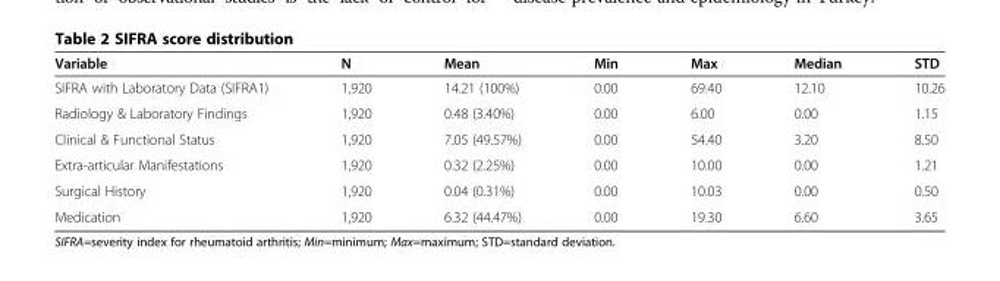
<table><thead><tr><td>Variable</td><td>N</td><td>Mean</td><td>Min</td><td>Max</td><td>Median</td><td>STD</td></tr></thead><tbody><tr><td>SIFRA with Laboratory Data (SIFRA1)</td><td>1,920</td><td>14.21 (100%)</td><td>0.00</td><td>69.40</td><td>12.10</td><td>10.26</td></tr><tr><td>Radiology &amp; Laboratory Findings</td><td>1,920</td><td>0.48 (3.40%)</td><td>0.00</td><td>6.00</td><td>0.00</td><td>1.15</td></tr><tr><td>Clinical &amp; Functional Status</td><td>1,920</td><td>7.05 (49.57%)</td><td>0.00</td><td>54.40</td><td>3.20</td><td>8.50</td></tr><tr><td>Extra-articular Manifestations</td><td>1,920</td><td>0.32 (2.25%)</td><td>0.00</td><td>10.00</td><td>0.00</td><td>1.21</td></tr><tr><td>Surgical History</td><td>1,920</td><td>0.04 (0.31%)</td><td>0.00</td><td>10.03</td><td>0.00</td><td>0.50</td></tr><tr><td>Medication</td><td>1,920</td><td>6.32 (44.47%)</td><td>0.00</td><td>19.30</td><td>6.60</td><td>3.65</td></tr></tbody></table>